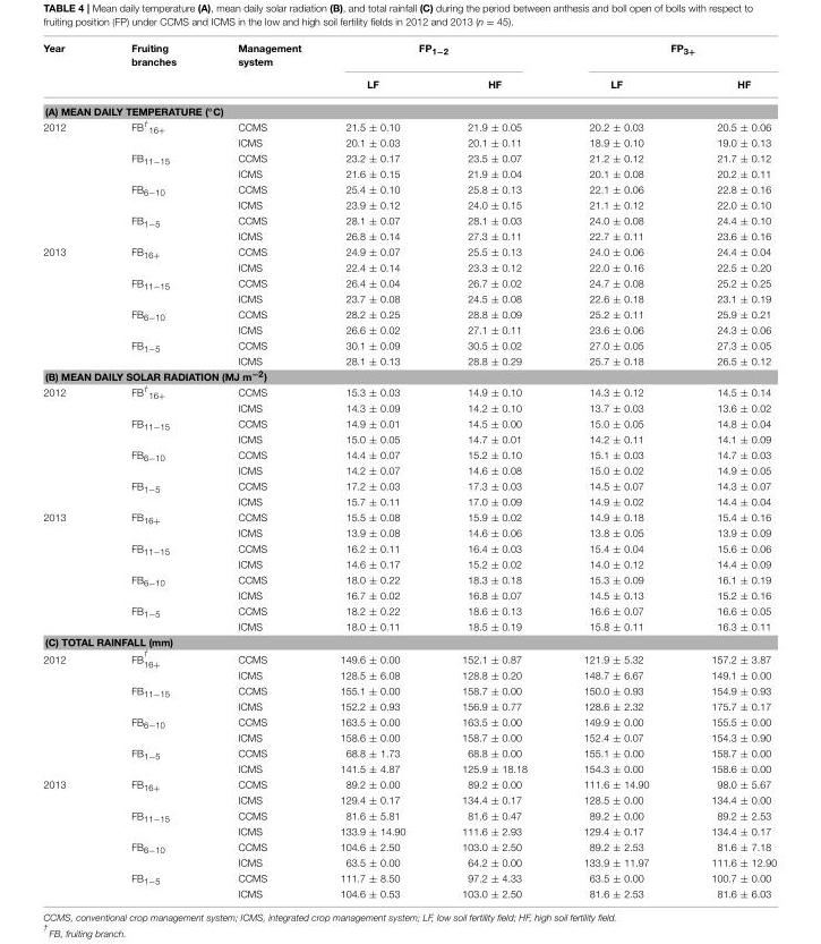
<table><thead><tr><td rowspan="2">Year</td><td rowspan="2">Fruiting branches</td><td rowspan="2">Management system</td><td colspan="2">FP<sub>1−2</sub></td><td colspan="2">FP<sub>3+</sub></td></tr><tr><td>LF</td><td>HF</td><td>LF</td><td>HF</td></tr></thead><tbody><tr><td colspan="7">(A) MEAN DAILY TEMPERATURE (◦C)</td></tr><tr><td rowspan="8">2012</td><td>FB<sup>†</sup> <sub>16+</sub></td><td>CCMS</td><td>21.5 ± 0.10</td><td>21.9 ± 0.05</td><td>20.2 ± 0.03</td><td>20.5 ± 0.06</td></tr><tr><td></td><td>ICMS</td><td>20.1 ± 0.03</td><td>20.1 ± 0.11</td><td>18.9 ± 0.10</td><td>19.0 ± 0.13</td></tr><tr><td>FB<sub>11−15</sub></td><td>CCMS</td><td>23.2 ± 0.17</td><td>23.5 ± 0.07</td><td>21.2 ± 0.12</td><td>21.7 ± 0.12</td></tr><tr><td></td><td>ICMS</td><td>21.6 ± 0.15</td><td>21.9 ± 0.04</td><td>20.1 ± 0.08</td><td>20.2 ± 0.11</td></tr><tr><td>FB<sub>6−10</sub></td><td>CCMS</td><td>25.4 ± 0.10</td><td>25.8 ± 0.13</td><td>22.1 ± 0.06</td><td>22.8 ± 0.16</td></tr><tr><td></td><td>ICMS</td><td>23.9 ± 0.12</td><td>24.0 ± 0.15</td><td>21.1 ± 0.12</td><td>22.0 ± 0.10</td></tr><tr><td>FB<sub>1−5</sub></td><td>CCMS</td><td>28.1 ± 0.07</td><td>28.1 ± 0.03</td><td>24.0 ± 0.08</td><td>24.4 ± 0.10</td></tr><tr><td></td><td>ICMS</td><td>26.8 ± 0.14</td><td>27.3 ± 0.11</td><td>22.7 ± 0.11</td><td>23.6 ± 0.16</td></tr><tr><td rowspan="8">2013</td><td>FB<sub>16+</sub></td><td>CCMS</td><td>24.9 ± 0.07</td><td>25.5 ± 0.13</td><td>24.0 ± 0.06</td><td>24.4 ± 0.04</td></tr><tr><td></td><td>ICMS</td><td>22.4 ± 0.14</td><td>23.3 ± 0.12</td><td>22.0 ± 0.16</td><td>22.5 ± 0.20</td></tr><tr><td>FB<sub>11−15</sub></td><td>CCMS</td><td>26.4 ± 0.04</td><td>26.7 ± 0.02</td><td>24.7 ± 0.08</td><td>25.2 ± 0.25</td></tr><tr><td></td><td>ICMS</td><td>23.7 ± 0.08</td><td>24.5 ± 0.08</td><td>22.6 ± 0.18</td><td>23.1 ± 0.19</td></tr><tr><td>FB<sub>6−10</sub></td><td>CCMS</td><td>28.2 ± 0.25</td><td>28.8 ± 0.09</td><td>25.2 ± 0.11</td><td>25.9 ± 0.21</td></tr><tr><td></td><td>ICMS</td><td>26.6 ± 0.02</td><td>27.1 ± 0.11</td><td>23.6 ± 0.06</td><td>24.3 ± 0.06</td></tr><tr><td>FB<sub>1−5</sub></td><td>CCMS</td><td>30.1 ± 0.09</td><td>30.5 ± 0.02</td><td>27.0 ± 0.05</td><td>27.3 ± 0.05</td></tr><tr><td></td><td>ICMS</td><td>28.1 ± 0.13</td><td>28.8 ± 0.29</td><td>25.7 ± 0.18</td><td>26.5 ± 0.12</td></tr><tr><td colspan="7">(B) MEAN DAILY SOLAR RADIATION (MJ m<sup>−2</sup>)</td></tr><tr><td rowspan="8">2012</td><td>FB<sup>†</sup> <sub>16+</sub></td><td>CCMS</td><td>15.3 ± 0.03</td><td>14.9 ± 0.10</td><td>14.3 ± 0.12</td><td>14.5 ± 0.14</td></tr><tr><td></td><td>ICMS</td><td>14.3 ± 0.09</td><td>14.2 ± 0.10</td><td>13.7 ± 0.03</td><td>13.6 ± 0.02</td></tr><tr><td>FB<sub>11−15</sub></td><td>CCMS</td><td>14.9 ± 0.01</td><td>14.5 ± 0.00</td><td>15.0 ± 0.05</td><td>14.8 ± 0.04</td></tr><tr><td></td><td>ICMS</td><td>15.0 ± 0.05</td><td>14.7 ± 0.01</td><td>14.2 ± 0.11</td><td>14.1 ± 0.09</td></tr><tr><td>FB<sub>6−10</sub></td><td>CCMS</td><td>14.4 ± 0.07</td><td>15.2 ± 0.10</td><td>15.1 ± 0.03</td><td>14.7 ± 0.03</td></tr><tr><td></td><td>ICMS</td><td>14.2 ± 0.07</td><td>14.6 ± 0.08</td><td>15.0 ± 0.02</td><td>14.9 ± 0.05</td></tr><tr><td>FB<sub>1−5</sub></td><td>CCMS</td><td>17.2 ± 0.03</td><td>17.3 ± 0.03</td><td>14.5 ± 0.07</td><td>14.3 ± 0.07</td></tr><tr><td></td><td>ICMS</td><td>15.7 ± 0.11</td><td>17.0 ± 0.09</td><td>14.9 ± 0.02</td><td>14.4 ± 0.04</td></tr><tr><td rowspan="8">2013</td><td>FB<sub>16+</sub></td><td>CCMS</td><td>15.5 ± 0.08</td><td>15.9 ± 0.02</td><td>14.9 ± 0.18</td><td>15.4 ± 0.16</td></tr><tr><td></td><td>ICMS</td><td>13.9 ± 0.08</td><td>14.6 ± 0.06</td><td>13.8 ± 0.05</td><td>13.9 ± 0.09</td></tr><tr><td>FB<sub>11−15</sub></td><td>CCMS</td><td>16.2 ± 0.11</td><td>16.4 ± 0.03</td><td>15.4 ± 0.04</td><td>15.6 ± 0.06</td></tr><tr><td></td><td>ICMS</td><td>14.6 ± 0.17</td><td>15.2 ± 0.02</td><td>14.0 ± 0.12</td><td>14.4 ± 0.09</td></tr><tr><td>FB<sub>6−10</sub></td><td>CCMS</td><td>18.0 ± 0.22</td><td>18.3 ± 0.18</td><td>15.3 ± 0.09</td><td>16.1 ± 0.19</td></tr><tr><td></td><td>ICMS</td><td>16.7 ± 0.02</td><td>16.8 ± 0.07</td><td>14.5 ± 0.13</td><td>15.2 ± 0.16</td></tr><tr><td>FB<sub>1−5</sub></td><td>CCMS</td><td>18.2 ± 0.22</td><td>18.6 ± 0.13</td><td>16.6 ± 0.07</td><td>16.6 ± 0.05</td></tr><tr><td></td><td>ICMS</td><td>18.0 ± 0.11</td><td>18.5 ± 0.19</td><td>15.8 ± 0.11</td><td>16.3 ± 0.11</td></tr><tr><td colspan="7">(C) TOTAL RAINFALL (mm)</td></tr><tr><td rowspan="8">2012</td><td>FB <sup>†</sup> <sub>16+</sub></td><td>CCMS</td><td>149.6 ± 0.00</td><td>152.1 ± 0.87</td><td>121.9 ± 5.32</td><td>157.2 ± 3.87</td></tr><tr><td></td><td>ICMS</td><td>128.5 ± 6.08</td><td>128.8 ± 0.20</td><td>148.7 ± 6.67</td><td>149.1 ± 0.00</td></tr><tr><td>FB<sub>11−15</sub></td><td>CCMS</td><td>155.1 ± 0.00</td><td>158.7 ± 0.00</td><td>150.0 ± 0.93</td><td>154.9 ± 0.93</td></tr><tr><td></td><td>ICMS</td><td>152.2 ± 0.93</td><td>156.9 ± 0.77</td><td>128.6 ± 2.32</td><td>175.7 ± 0.17</td></tr><tr><td>FB<sub>6−10</sub></td><td>CCMS</td><td>163.5 ± 0.00</td><td>163.5 ± 0.00</td><td>149.9 ± 0.00</td><td>155.5 ± 0.00</td></tr><tr><td></td><td>ICMS</td><td>158.6 ± 0.00</td><td>158.7 ± 0.00</td><td>152.4 ± 0.07</td><td>154.3 ± 0.90</td></tr><tr><td>FB<sub>1−5</sub></td><td>CCMS</td><td>68.8 ± 1.73</td><td>68.8 ± 0.00</td><td>155.1 ± 0.00</td><td>158.7 ± 0.00</td></tr><tr><td></td><td>ICMS</td><td>141.5 ± 4.87</td><td>125.9 ± 18.18</td><td>154.3 ± 0.00</td><td>158.6 ± 0.00</td></tr><tr><td rowspan="8">2013</td><td>FB<sub>16+</sub></td><td>CCMS</td><td>89.2 ± 0.00</td><td>89.2 ± 0.00</td><td>111.6 ± 14.90</td><td>98.0 ± 5.67</td></tr><tr><td></td><td>ICMS</td><td>129.4 ± 0.17</td><td>134.4 ± 0.17</td><td>128.5 ± 0.00</td><td>134.4 ± 0.00</td></tr><tr><td>FB<sub>11−15</sub></td><td>CCMS</td><td>81.6 ± 5.81</td><td>81.6 ± 0.47</td><td>89.2 ± 0.00</td><td>89.2 ± 2.53</td></tr><tr><td></td><td>ICMS</td><td>133.9 ± 14.90</td><td>111.6 ± 2.93</td><td>129.4 ± 0.17</td><td>134.4 ± 0.17</td></tr><tr><td>FB<sub>6−10</sub></td><td>CCMS</td><td>104.6 ± 2.50</td><td>103.0 ± 2.50</td><td>89.2 ± 2.53</td><td>81.6 ± 7.18</td></tr><tr><td></td><td>ICMS</td><td>63.5 ± 0.00</td><td>64.2 ± 0.00</td><td>133.9 ± 11.97</td><td>111.6 ± 12.90</td></tr><tr><td>FB<sub>1−5</sub></td><td>CCMS</td><td>111.7 ± 8.50</td><td>97.2 ± 4.33</td><td>63.5 ± 0.00</td><td>100.7 ± 0.00</td></tr><tr><td></td><td>ICMS</td><td>104.6 ± 0.53</td><td>103.0 ± 2.50</td><td>81.6 ± 2.53</td><td>81.6 ± 6.03</td></tr></tbody></table>